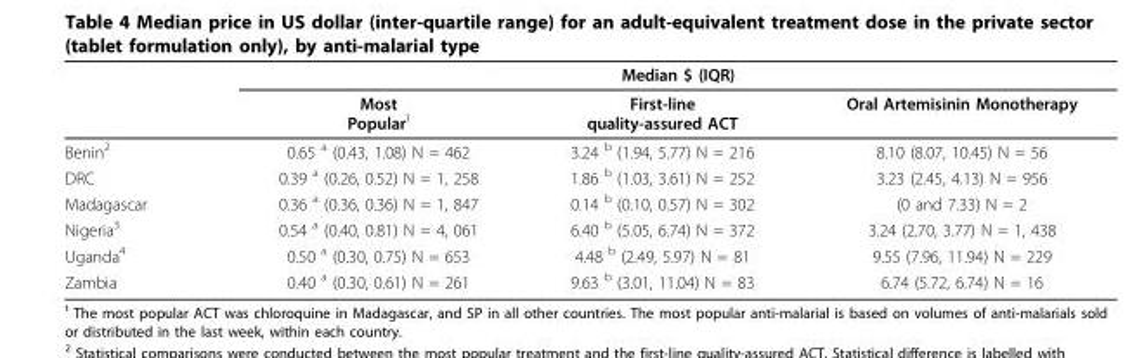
<table><thead><tr><td rowspan="2"></td><td colspan="3">Median $ (IQR)</td></tr><tr><td>Most Popular¹</td><td>First-line quality-assured ACT</td><td>Oral Artemisinin Monotherapy</td></tr></thead><tbody><tr><td>Benin<sup>2</sup></td><td>0.65 <sup>a</sup> (0.43, 1.08) N = 462</td><td>3.24 <sup>b</sup> (1.94, 5.77) N = 216</td><td>8.10 (8.07, 10.45) N = 56</td></tr><tr><td>DRC</td><td>0.39 <sup>a</sup> (0.26, 0.52) N = 1, 258</td><td>1.86 <sup>b</sup> (1.03, 3.61) N = 252</td><td>3.23 (2.45, 4.13) N = 956</td></tr><tr><td>Madagascar</td><td>0.36 <sup>a</sup> (0.36, 0.36) N = 1, 847</td><td>0.14 <sup>b</sup> (0.10, 0.57) N = 302</td><td>(0 and 7.33) N = 2</td></tr><tr><td>Nigeria<sup>3</sup></td><td>0.54 <sup>a</sup> (0.40, 0.81) N = 4, 061</td><td>6.40 <sup>b</sup> (5.05, 6.74) N = 372</td><td>3.24 (2.70, 3.77) N = 1, 438</td></tr><tr><td>Uganda<sup>4</sup></td><td>0.50 <sup>a</sup> (0.30, 0.75) N = 653</td><td>4.48 <sup>b</sup> (2.49, 5.97) N = 81</td><td>9.55 (7.96, 11.94) N = 229</td></tr><tr><td>Zambia</td><td>0.40 <sup>a</sup> (0.30, 0.61) N = 261</td><td>9.63 <sup>b</sup> (3.01, 11.04) N = 83</td><td>6.74 (5.72, 6.74) N = 16</td></tr></tbody></table>